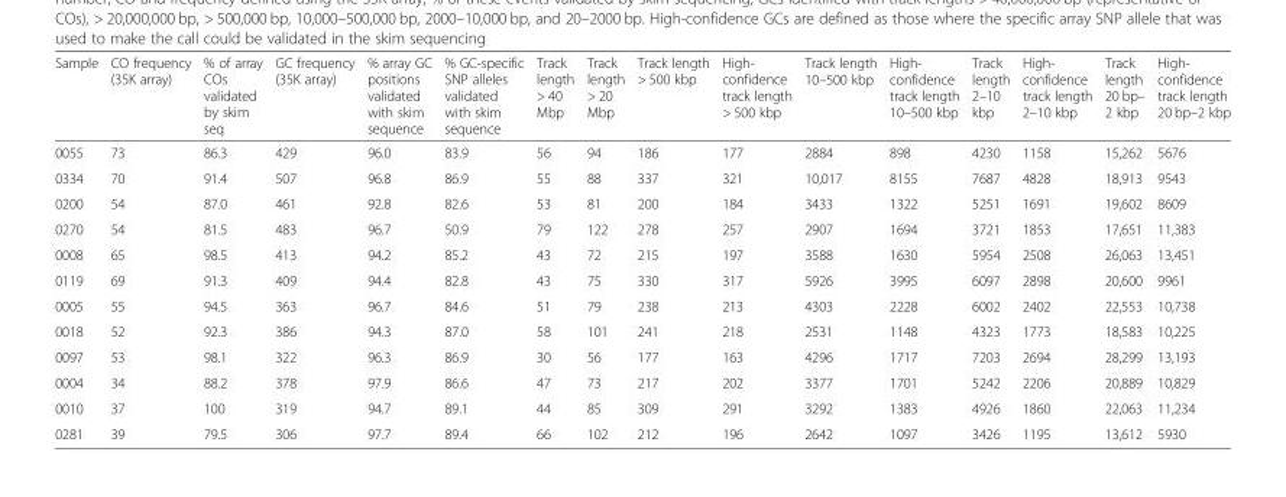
<table><thead><tr><td>Sample</td><td>CO frequency (35K array)</td><td>% of array COs validated by skim seq</td><td>GC frequency (35K array)</td><td>% array GC positions validated with skim sequence</td><td>% GC-specific SNP alleles validated with skim sequence</td><td>Track length &gt; 40 Mbp</td><td>Track length &gt; 20 Mbp</td><td>Track length &gt; 500 kbp</td><td>High- confidence track length &gt; 500 kbp</td><td>Track length 10–500 kbp</td><td>High- confidence track length 10–500 kbp</td><td>Track length 2–10 kbp</td><td>High- confidence track length 2–10 kbp</td><td>Track length 20 bp– 2 kbp</td><td>High- confidence track length 20 bp–2 kbp</td></tr></thead><tbody><tr><td>0055</td><td>73</td><td>86.3</td><td>429</td><td>96.0</td><td>83.9</td><td>56</td><td>94</td><td>186</td><td>177</td><td>2884</td><td>898</td><td>4230</td><td>1158</td><td>15,262</td><td>5676</td></tr><tr><td>0334</td><td>70</td><td>91.4</td><td>507</td><td>96.8</td><td>86.9</td><td>55</td><td>88</td><td>337</td><td>321</td><td>10,017</td><td>8155</td><td>7687</td><td>4828</td><td>18,913</td><td>9543</td></tr><tr><td>0200</td><td>54</td><td>87.0</td><td>461</td><td>92.8</td><td>82.6</td><td>53</td><td>81</td><td>200</td><td>184</td><td>3433</td><td>1322</td><td>5251</td><td>1691</td><td>19,602</td><td>8609</td></tr><tr><td>0270</td><td>54</td><td>81.5</td><td>483</td><td>96.7</td><td>50.9</td><td>79</td><td>122</td><td>278</td><td>257</td><td>2907</td><td>1694</td><td>3721</td><td>1853</td><td>17,651</td><td>11,383</td></tr><tr><td>0008</td><td>65</td><td>98.5</td><td>413</td><td>94.2</td><td>85.2</td><td>43</td><td>72</td><td>215</td><td>197</td><td>3588</td><td>1630</td><td>5954</td><td>2508</td><td>26,063</td><td>13,451</td></tr><tr><td>0119</td><td>69</td><td>91.3</td><td>409</td><td>94.4</td><td>82.8</td><td>43</td><td>75</td><td>330</td><td>317</td><td>5926</td><td>3995</td><td>6097</td><td>2898</td><td>20,600</td><td>9961</td></tr><tr><td>0005</td><td>55</td><td>94.5</td><td>363</td><td>96.7</td><td>84.6</td><td>51</td><td>79</td><td>238</td><td>213</td><td>4303</td><td>2228</td><td>6002</td><td>2402</td><td>22,553</td><td>10,738</td></tr><tr><td>0018</td><td>52</td><td>92.3</td><td>386</td><td>94.3</td><td>87.0</td><td>58</td><td>101</td><td>241</td><td>218</td><td>2531</td><td>1148</td><td>4323</td><td>1773</td><td>18,583</td><td>10,225</td></tr><tr><td>0097</td><td>53</td><td>98.1</td><td>322</td><td>96.3</td><td>86.9</td><td>30</td><td>56</td><td>177</td><td>163</td><td>4296</td><td>1717</td><td>7203</td><td>2694</td><td>28,299</td><td>13,193</td></tr><tr><td>0004</td><td>34</td><td>88.2</td><td>378</td><td>97.9</td><td>86.6</td><td>47</td><td>73</td><td>217</td><td>202</td><td>3377</td><td>1701</td><td>5242</td><td>2206</td><td>20,889</td><td>10,829</td></tr><tr><td>0010</td><td>37</td><td>100</td><td>319</td><td>94.7</td><td>89.1</td><td>44</td><td>85</td><td>309</td><td>291</td><td>3292</td><td>1383</td><td>4926</td><td>1860</td><td>22,063</td><td>11,234</td></tr><tr><td>0281</td><td>39</td><td>79.5</td><td>306</td><td>97.7</td><td>89.4</td><td>66</td><td>102</td><td>212</td><td>196</td><td>2642</td><td>1097</td><td>3426</td><td>1195</td><td>13,612</td><td>5930</td></tr></tbody></table>